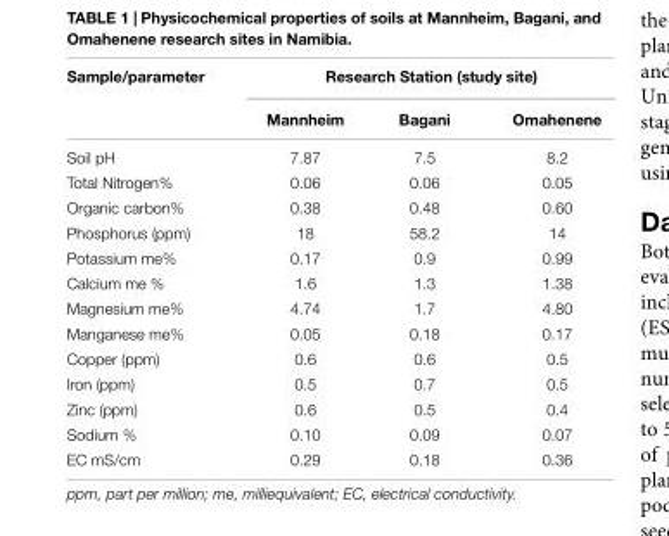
<table><thead><tr><td rowspan="2">Sample/parameter</td><td colspan="3">Research Station (study site)</td></tr><tr><td>Mannheim</td><td>Bagani</td><td>Omahenene</td></tr></thead><tbody><tr><td>Soil pH</td><td>7.87</td><td>7.5</td><td>8.2</td></tr><tr><td>Total Nitrogen%</td><td>0.06</td><td>0.06</td><td>0.05</td></tr><tr><td>Organic carbon%</td><td>0.38</td><td>0.48</td><td>0.60</td></tr><tr><td>Phosphorus (ppm)</td><td>18</td><td>58.2</td><td>14</td></tr><tr><td>Potassium me%</td><td>0.17</td><td>0.9</td><td>0.99</td></tr><tr><td>Calcium me %</td><td>1.6</td><td>1.3</td><td>1.38</td></tr><tr><td>Magnesium me%</td><td>4.74</td><td>1.7</td><td>4.80</td></tr><tr><td>Manganese me%</td><td>0.05</td><td>0.18</td><td>0.17</td></tr><tr><td>Copper (ppm)</td><td>0.6</td><td>0.6</td><td>0.5</td></tr><tr><td>Iron (ppm)</td><td>0.5</td><td>0.7</td><td>0.5</td></tr><tr><td>Zinc (ppm)</td><td>0.6</td><td>0.5</td><td>0.4</td></tr><tr><td>Sodium %</td><td>0.10</td><td>0.09</td><td>0.07</td></tr><tr><td>EC mS/cm</td><td>0.29</td><td>0.18</td><td>0.36</td></tr></tbody></table>